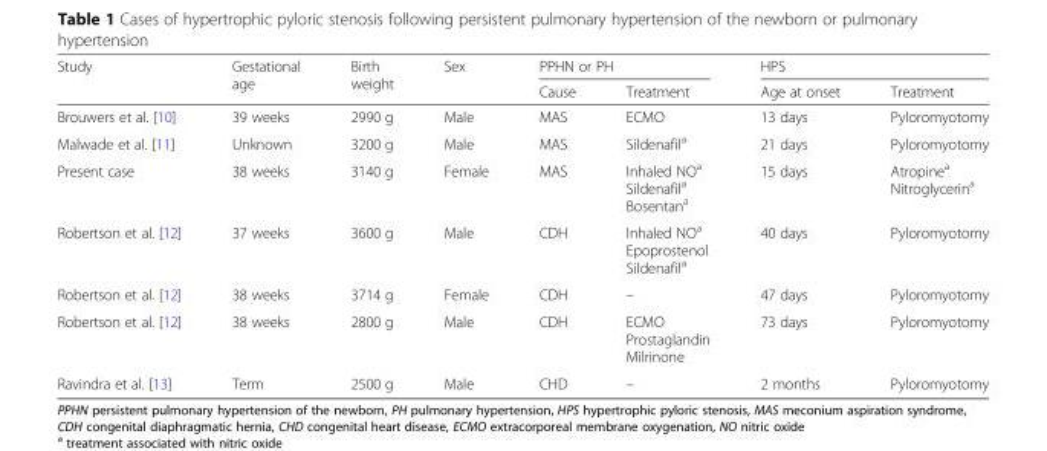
<table><thead><tr><td rowspan="2">Study</td><td rowspan="2">Gestational age</td><td rowspan="2">Birth weight</td><td rowspan="2">Sex</td><td colspan="2">PPHN or PH</td><td colspan="2">HPS</td></tr><tr><td>Cause</td><td>Treatment</td><td>Age at onset</td><td>Treatment</td></tr></thead><tbody><tr><td>Brouwers et al. [10]</td><td>39 weeks</td><td>2990 g</td><td>Male</td><td>MAS</td><td>ECMO</td><td>13 days</td><td>Pyloromyotomy</td></tr><tr><td>Malwade et al. [11]</td><td>Unknown</td><td>3200 g</td><td>Male</td><td>MAS</td><td>Sildenafil<sup>a</sup></td><td>21 days</td><td>Pyloromyotomy</td></tr><tr><td>Present case</td><td>38 weeks</td><td>3140 g</td><td>Female</td><td>MAS</td><td>Inhaled NO<sup>a</sup> Sildenafil<sup>a</sup> Bosentan<sup>a</sup></td><td>15 days</td><td>Atropine<sup>a</sup> Nitroglycerin<sup>a</sup></td></tr><tr><td>Robertson et al. [12]</td><td>37 weeks</td><td>3600 g</td><td>Male</td><td>CDH</td><td>Inhaled NO<sup>a</sup> Epoprostenol Sildenafil<sup>a</sup></td><td>40 days</td><td>Pyloromyotomy</td></tr><tr><td>Robertson et al. [12]</td><td>38 weeks</td><td>3714 g</td><td>Female</td><td>CDH</td><td>–</td><td>47 days</td><td>Pyloromyotomy</td></tr><tr><td>Robertson et al. [12]</td><td>38 weeks</td><td>2800 g</td><td>Male</td><td>CDH</td><td>ECMO Prostaglandin Milrinone</td><td>73 days</td><td>Pyloromyotomy</td></tr><tr><td>Ravindra et al. [13]</td><td>Term</td><td>2500 g</td><td>Male</td><td>CHD</td><td>–</td><td>2 months</td><td>Pyloromyotomy</td></tr></tbody></table>